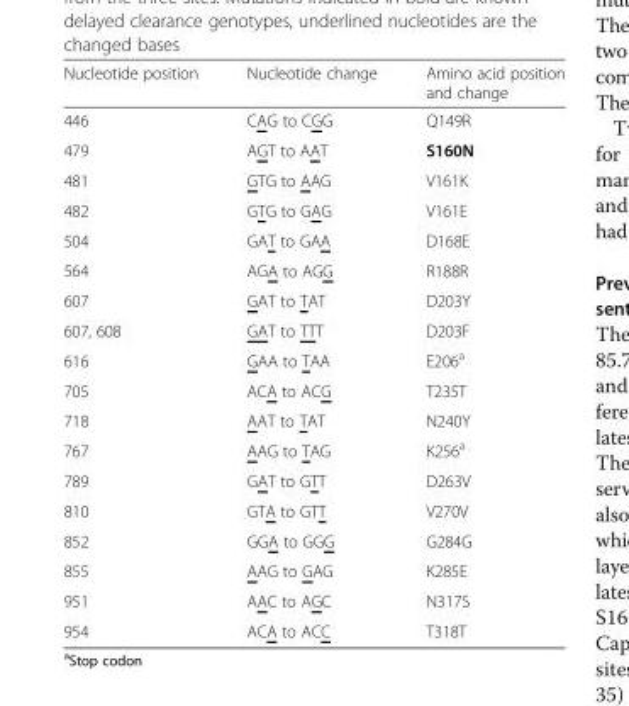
<table><thead><tr><td>Nucleotide position</td><td>Nucleotide change</td><td>Amino acid position and change</td></tr></thead><tbody><tr><td>446</td><td>CAG to CGG</td><td>Q149R</td></tr><tr><td>479</td><td>AGT to AAT</td><td>S160N</td></tr><tr><td>481</td><td>GTG to AAG</td><td>V161K</td></tr><tr><td>482</td><td>GTG to GAG</td><td>V161E</td></tr><tr><td>504</td><td>GAT to GAA</td><td>D168E</td></tr><tr><td>564</td><td>AGA to AGG</td><td>R188R</td></tr><tr><td>607</td><td>GAT to TAT</td><td>D203Y</td></tr><tr><td>607, 608</td><td>GAT to TTT</td><td>D203F</td></tr><tr><td>616</td><td>GAA to TAA</td><td>E206<sup>a</sup></td></tr><tr><td>705</td><td>ACA to ACG</td><td>T235T</td></tr><tr><td>718</td><td>AAT to TAT</td><td>N240Y</td></tr><tr><td>767</td><td>AAG to TAG</td><td>K256<sup>a</sup></td></tr><tr><td>789</td><td>GAT to GTT</td><td>D263V</td></tr><tr><td>810</td><td>GTA to GTT</td><td>V270V</td></tr><tr><td>852</td><td>GGA to GGG</td><td>G284G</td></tr><tr><td>855</td><td>AAG to GAG</td><td>K285E</td></tr><tr><td>951</td><td>AAC to AGC</td><td>N317S</td></tr><tr><td>954</td><td>ACA to ACC</td><td>T318T</td></tr></tbody></table>